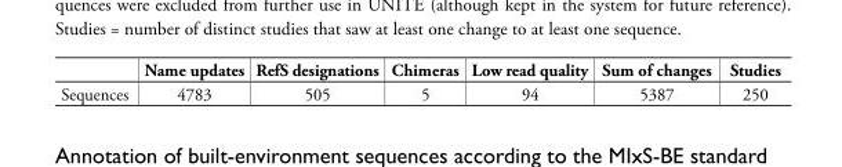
<table><thead><tr><td></td><td>Name updates</td><td>RefS designations</td><td>Chimeras</td><td>Low read quality</td><td>Sum of changes</td><td>Studies</td></tr></thead><tbody><tr><td>Sequences</td><td>4783</td><td>505</td><td>5</td><td>94</td><td>5387</td><td>250</td></tr></tbody></table>